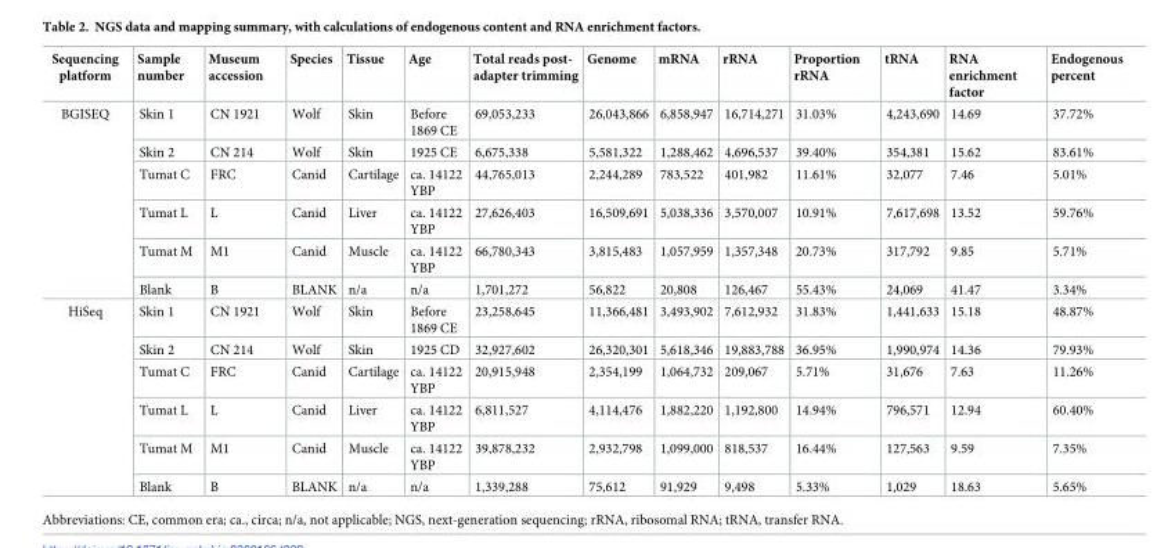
<table><thead><tr><td>Sequencing platform</td><td>Sample number</td><td>Museum accession</td><td>Species</td><td>Tissue</td><td>Age</td><td>Total reads post- adapter trimming</td><td>Genome</td><td>mRNA</td><td>rRNA</td><td>Proportion rRNA</td><td>tRNA</td><td>RNA enrichment factor</td><td>Endogenous percent</td></tr></thead><tbody><tr><td rowspan="6">BGISEQ</td><td>Skin 1</td><td>CN 1921</td><td>Wolf</td><td>Skin</td><td>Before 1869 CE</td><td>69,053,233</td><td>26,043,866</td><td>6,858,947</td><td>16,714,271</td><td>31.03%</td><td>4,243,690</td><td>14.69</td><td>37.72%</td></tr><tr><td>Skin 2</td><td>CN 214</td><td>Wolf</td><td>Skin</td><td>1925 CE</td><td>6,675,338</td><td>5,581,322</td><td>1,288,462</td><td>4,696,537</td><td>39.40%</td><td>354,381</td><td>15.62</td><td>83.61%</td></tr><tr><td>Tumat C</td><td>FRC</td><td>Canid</td><td>Cartilage</td><td>ca. 14122 YBP</td><td>44,765,013</td><td>2,244,289</td><td>783,522</td><td>401,982</td><td>11.61%</td><td>32,077</td><td>7.46</td><td>5.01%</td></tr><tr><td>Tumat L</td><td>L</td><td>Canid</td><td>Liver</td><td>ca. 14122 YBP</td><td>27,626,403</td><td>16,509,691</td><td>5,038,336</td><td>3,570,007</td><td>10.91%</td><td>7,617,698</td><td>13.52</td><td>59.76%</td></tr><tr><td>Tumat M</td><td>M1</td><td>Canid</td><td>Muscle</td><td>ca. 14122 YBP</td><td>66,780,343</td><td>3,815,483</td><td>1,057,959</td><td>1,357,348</td><td>20.73%</td><td>317,792</td><td>9.85</td><td>5.71%</td></tr><tr><td>Blank</td><td>B</td><td>BLANK</td><td>n/a</td><td>n/a</td><td>1,701,272</td><td>56,822</td><td>20,808</td><td>126,467</td><td>55.43%</td><td>24,069</td><td>41.47</td><td>3.34%</td></tr><tr><td rowspan="6">HiSeq</td><td>Skin 1</td><td>CN 1921</td><td>Wolf</td><td>Skin</td><td>Before 1869 CE</td><td>23,258,645</td><td>11,366,481</td><td>3,493,902</td><td>7,612,932</td><td>31.83%</td><td>1,441,633</td><td>15.18</td><td>48.87%</td></tr><tr><td>Skin 2</td><td>CN 214</td><td>Wolf</td><td>Skin</td><td>1925 CD</td><td>32,927,602</td><td>26,320,301</td><td>5,618,346</td><td>19,883,788</td><td>36.95%</td><td>1,990,974</td><td>14.36</td><td>79.93%</td></tr><tr><td>Tumat C</td><td>FRC</td><td>Canid</td><td>Cartilage</td><td>ca. 14122 YBP</td><td>20,915,948</td><td>2,354,199</td><td>1,064,732</td><td>209,067</td><td>5.71%</td><td>31,676</td><td>7.63</td><td>11.26%</td></tr><tr><td>Tumat L</td><td>L</td><td>Canid</td><td>Liver</td><td>ca. 14122 YBP</td><td>6,811,527</td><td>4,114,476</td><td>1,882,220</td><td>1,192,800</td><td>14.94%</td><td>796,571</td><td>12.94</td><td>60.40%</td></tr><tr><td>Tumat M</td><td>M1</td><td>Canid</td><td>Muscle</td><td>ca. 14122 YBP</td><td>39,878,232</td><td>2,932,798</td><td>1,099,000</td><td>818,537</td><td>16.44%</td><td>127,563</td><td>9.59</td><td>7.35%</td></tr><tr><td>Blank</td><td>B</td><td>BLANK</td><td>n/a</td><td>n/a</td><td>1,339,288</td><td>75,612</td><td>91,929</td><td>9,498</td><td>5.33%</td><td>1,029</td><td>18.63</td><td>5.65%</td></tr></tbody></table>